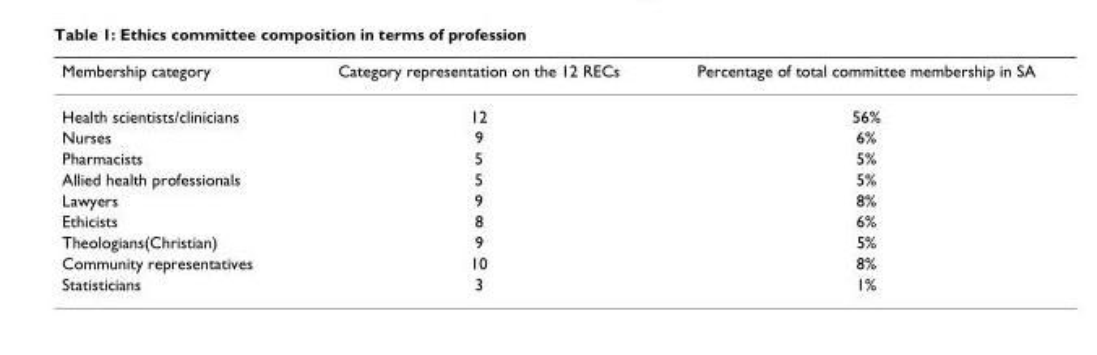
<table><thead><tr><td>Membership category</td><td>Category representation on the 12 RECs</td><td>Percentage of total committee membership in SA</td></tr></thead><tbody><tr><td>Health scientists/clinicians</td><td>12</td><td>56%</td></tr><tr><td>Nurses</td><td>9</td><td>6%</td></tr><tr><td>Pharmacists</td><td>5</td><td>5%</td></tr><tr><td>Allied health professionals</td><td>5</td><td>5%</td></tr><tr><td>Lawyers</td><td>9</td><td>8%</td></tr><tr><td>Ethicists</td><td>8</td><td>6%</td></tr><tr><td>Theologians(Christian)</td><td>9</td><td>5%</td></tr><tr><td>Community representatives</td><td>10</td><td>8%</td></tr><tr><td>Statisticians</td><td>3</td><td>1%</td></tr></tbody></table>